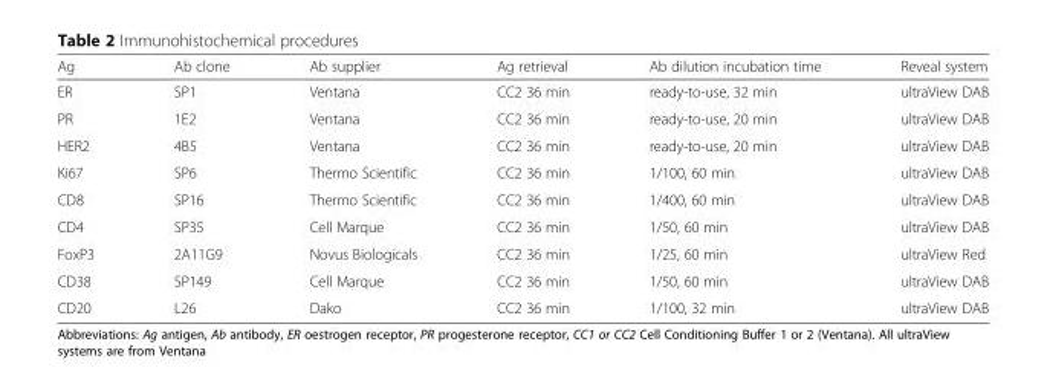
<table><thead><tr><td>Ag</td><td>Ab clone</td><td>Ab supplier</td><td>Ag retrieval</td><td>Ab dilution incubation time</td><td>Reveal system</td></tr></thead><tbody><tr><td>ER</td><td>SP1</td><td>Ventana</td><td>CC2 36 min</td><td>ready-to-use, 32 min</td><td>ultraView DAB</td></tr><tr><td>PR</td><td>1E2</td><td>Ventana</td><td>CC2 36 min</td><td>ready-to-use, 20 min</td><td>ultraView DAB</td></tr><tr><td>HER2</td><td>4B5</td><td>Ventana</td><td>CC2 36 min</td><td>ready-to-use, 20 min</td><td>ultraView DAB</td></tr><tr><td>Ki67</td><td>SP6</td><td>Thermo Scientific</td><td>CC2 36 min</td><td>1/100, 60 min</td><td>ultraView DAB</td></tr><tr><td>CD8</td><td>SP16</td><td>Thermo Scientific</td><td>CC2 36 min</td><td>1/400, 60 min</td><td>ultraView DAB</td></tr><tr><td>CD4</td><td>SP35</td><td>Cell Marque</td><td>CC2 36 min</td><td>1/50, 60 min</td><td>ultraView DAB</td></tr><tr><td>FoxP3</td><td>2A11G9</td><td>Novus Biologicals</td><td>CC2 36 min</td><td>1/25, 60 min</td><td>ultraView Red</td></tr><tr><td>CD38</td><td>SP149</td><td>Cell Marque</td><td>CC2 36 min</td><td>1/50, 60 min</td><td>ultraView DAB</td></tr><tr><td>CD20</td><td>L26</td><td>Dako</td><td>CC2 36 min</td><td>1/100, 32 min</td><td>ultraView DAB</td></tr></tbody></table>